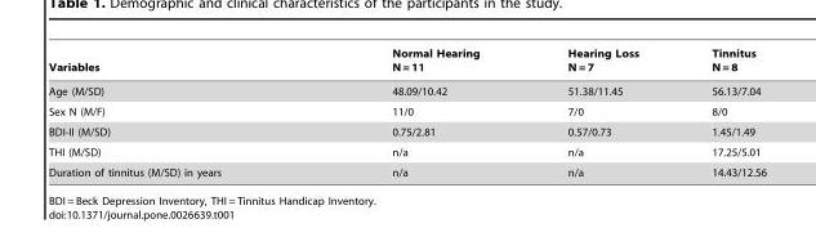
<table><thead><tr><td>Variables</td><td>Normal Hearing N = 11</td><td>Hearing Loss N = 7</td><td>Tinnitus N = 8</td></tr></thead><tbody><tr><td>Age (M/SD)</td><td>48.09/10.42</td><td>51.38/11.45</td><td>56.13/7.04</td></tr><tr><td>Sex N (M/F)</td><td>11/0</td><td>7/0</td><td>8/0</td></tr><tr><td>BDI-II (M/SD)</td><td>0.75/2.81</td><td>0.57/0.73</td><td>1.45/1.49</td></tr><tr><td>THI (M/SD)</td><td>n/a</td><td>n/a</td><td>17.25/5.01</td></tr><tr><td>Duration of tinnitus (M/SD) in years</td><td>n/a</td><td>n/a</td><td>14.43/12.56</td></tr></tbody></table>